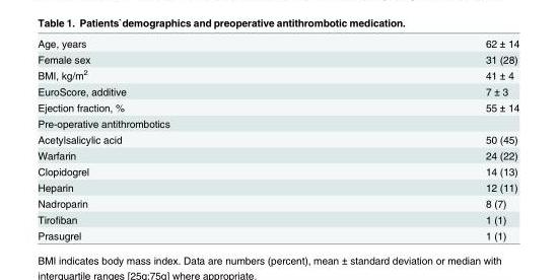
<table><tbody><tr><td>Age, years</td><td>62 ± 14</td></tr><tr><td>Female sex</td><td>31 (28)</td></tr><tr><td>BMI, kg/m<sup>2</sup></td><td>41 ± 4</td></tr><tr><td>EuroScore, additive</td><td>7 ± 3</td></tr><tr><td>Ejection fraction, %</td><td>55 ± 14</td></tr><tr><td colspan="2">Pre-operative antithrombotics</td></tr><tr><td>Acetylsalicylic acid</td><td>50 (45)</td></tr><tr><td>Warfarin</td><td>24 (22)</td></tr><tr><td>Clopidogrel</td><td>14 (13)</td></tr><tr><td>Heparin</td><td>12 (11)</td></tr><tr><td>Nadroparin</td><td>8 (7)</td></tr><tr><td>Tirofiban</td><td>1 (1)</td></tr><tr><td>Prasugrel</td><td>1 (1)</td></tr></tbody></table>